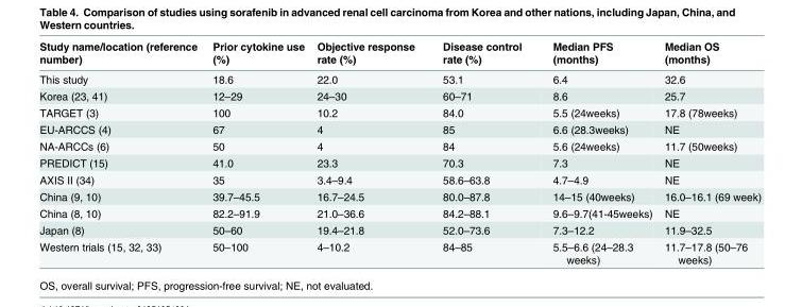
<table><thead><tr><td>Study name/location (reference number)</td><td>Prior cytokine use (%)</td><td>Objective response rate (%)</td><td>Disease control rate (%)</td><td>Median PFS (months)</td><td>Median OS (months)</td></tr></thead><tbody><tr><td>This study</td><td>18.6</td><td>22.0</td><td>53.1</td><td>6.4</td><td>32.6</td></tr><tr><td>Korea (23, 41)</td><td>12–29</td><td>24–30</td><td>60–71</td><td>8.6</td><td>25.7</td></tr><tr><td>TARGET (3)</td><td>100</td><td>10.2</td><td>84.0</td><td>5.5 (24weeks)</td><td>17.8 (78weeks)</td></tr><tr><td>EU-ARCCS (4)</td><td>67</td><td>4</td><td>85</td><td>6.6 (28.3weeks)</td><td>NE</td></tr><tr><td>NA-ARCCs (6)</td><td>50</td><td>4</td><td>84</td><td>5.6 (24weeks)</td><td>11.7 (50weeks)</td></tr><tr><td>PREDICT (15)</td><td>41.0</td><td>23.3</td><td>70.3</td><td>7.3</td><td>NE</td></tr><tr><td>AXIS II (34)</td><td>35</td><td>3.4–9.4</td><td>58.6–63.8</td><td>4.7–4.9</td><td>NE</td></tr><tr><td>China (9, 10)</td><td>39.7–45.5</td><td>16.7–24.5</td><td>80.0–87.8</td><td>14–15 (40weeks)</td><td>16.0–16.1 (69 week)</td></tr><tr><td>China (8, 10)</td><td>82.2–91.9</td><td>21.0–36.6</td><td>84.2–88.1</td><td>9.6–9.7(41-45weeks)</td><td>NE</td></tr><tr><td>Japan (8)</td><td>50–60</td><td>19.4–21.8</td><td>52.0–73.6</td><td>7.3–12.2</td><td>11.9–32.5</td></tr><tr><td>Western trials (15, 32, 33)</td><td>50–100</td><td>4–10.2</td><td>84–85</td><td>5.5–6.6 (24–28.3 weeks)</td><td>11.7–17.8 (50–76 weeks)</td></tr></tbody></table>